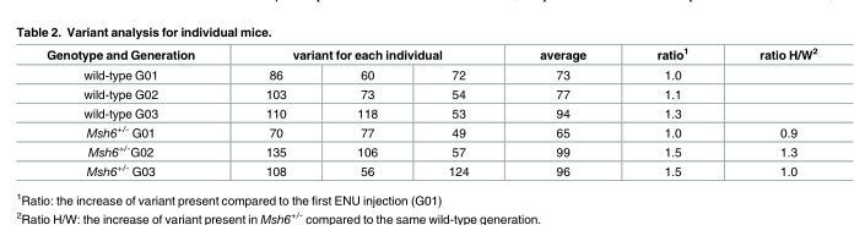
<table><thead><tr><td rowspan="2">Genotype and Generation wild-type G01</td><td colspan="3">variant for each individual</td><td rowspan="2">average 73</td><td rowspan="2">ratio<sup>1</sup> 1.0</td><td rowspan="2">ratio H/W<sup>2</sup></td></tr><tr><td>86</td><td>60</td><td>72</td></tr></thead><tbody><tr><td>wild-type G02</td><td>103</td><td>73</td><td>54</td><td>77</td><td>1.1</td><td></td></tr><tr><td>wild-type G03</td><td>110</td><td>118</td><td>53</td><td>94</td><td>1.3</td><td></td></tr><tr><td>Msh6<sup>+/-</sup> G01</td><td>70</td><td>77</td><td>49</td><td>65</td><td>1.0</td><td>0.9</td></tr><tr><td>Msh6<sup>+/-</sup>G02</td><td>135</td><td>106</td><td>57</td><td>99</td><td>1.5</td><td>1.3</td></tr><tr><td>Msh6<sup>+/-</sup> G03</td><td>108</td><td>56</td><td>124</td><td>96</td><td>1.5</td><td>1.0</td></tr></tbody></table>